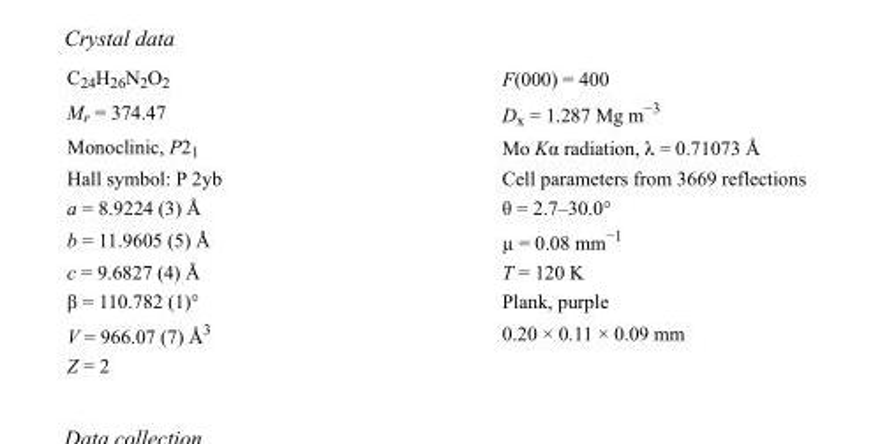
<table><tbody><tr><td>C<sub>24</sub>H<sub>26</sub>N<sub>2</sub>O<sub>2</sub></td><td>F(000) = 400</td></tr><tr><td>M<sub>r</sub> = 374.47</td><td>D<sub>x</sub> = 1.287 Mg m<sup>−3</sup></td></tr><tr><td>Monoclinic, P2<sub>1</sub></td><td>Mo Kα radiation, λ = 0.71073 Å</td></tr><tr><td>Hall symbol: P 2yb</td><td>Cell parameters from 3669 reflections</td></tr><tr><td>a = 8.9224 (3) Å</td><td>θ = 2.7–30.0°</td></tr><tr><td>b = 11.9605 (5) Å</td><td>µ = 0.08 mm<sup>−1</sup></td></tr><tr><td>c = 9.6827 (4) Å</td><td>T = 120 K</td></tr><tr><td>β = 110.782 (1)°</td><td>Plank, purple</td></tr><tr><td>V = 966.07 (7) Å<sup>3</sup></td><td>0.20 × 0.11 × 0.09 mm</td></tr><tr><td>Z = 2</td><td></td></tr></tbody></table>